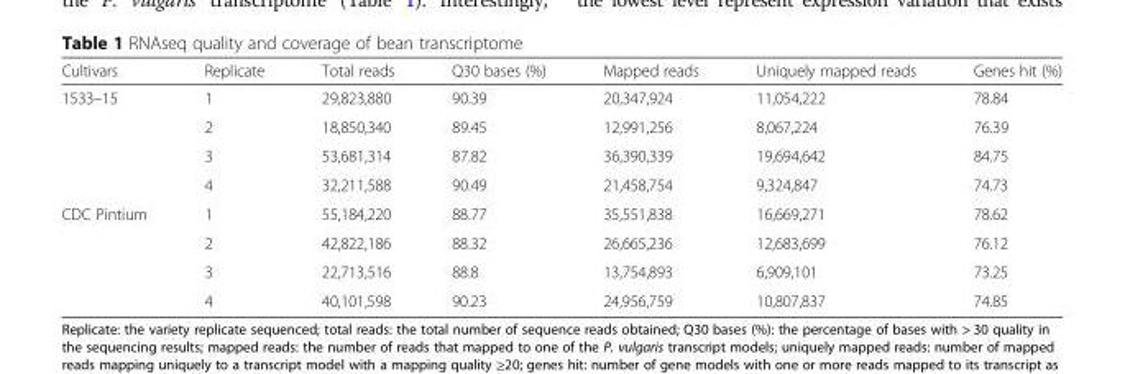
<table><thead><tr><td>Cultivars</td><td>Replicate</td><td>Total reads</td><td>Q30 bases (%)</td><td>Mapped reads</td><td>Uniquely mapped reads</td><td>Genes hit (%)</td></tr></thead><tbody><tr><td rowspan="4">1533–15</td><td>1</td><td>29,823,880</td><td>90.39</td><td>20,347,924</td><td>11,054,222</td><td>78.84</td></tr><tr><td>2</td><td>18,850,340</td><td>89.45</td><td>12,991,256</td><td>8,067,224</td><td>76.39</td></tr><tr><td>3</td><td>53,681,314</td><td>87.82</td><td>36,390,339</td><td>19,694,642</td><td>84.75</td></tr><tr><td>4</td><td>32,211,588</td><td>90.49</td><td>21,458,754</td><td>9,324,847</td><td>74.73</td></tr><tr><td rowspan="4">CDC Pintium</td><td>1</td><td>55,184,220</td><td>88.77</td><td>35,551,838</td><td>16,669,271</td><td>78.62</td></tr><tr><td>2</td><td>42,822,186</td><td>88.32</td><td>26,665,236</td><td>12,683,699</td><td>76.12</td></tr><tr><td>3</td><td>22,713,516</td><td>88.8</td><td>13,754,893</td><td>6,909,101</td><td>73.25</td></tr><tr><td>4</td><td>40,101,598</td><td>90.23</td><td>24,956,759</td><td>10,807,837</td><td>74.85</td></tr></tbody></table>